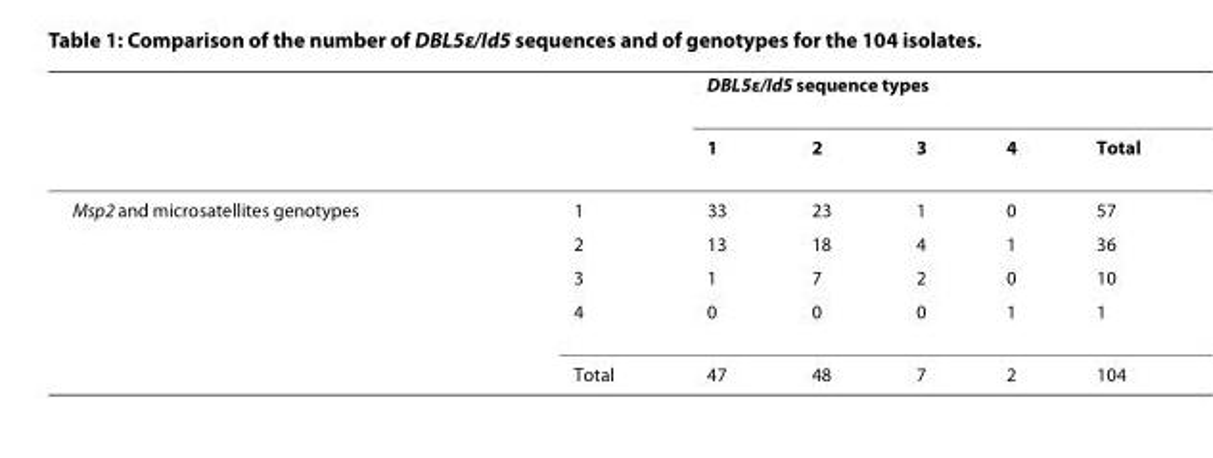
<table><thead><tr><td rowspan="2"></td><td rowspan="2"></td><td colspan="5">DBL5ε/Id5 sequence types</td></tr><tr><td>1</td><td>2</td><td>3</td><td>4</td><td>Total</td></tr></thead><tbody><tr><td rowspan="5">Msp2 and microsatellites genotypes</td><td>1</td><td>33</td><td>23</td><td>1</td><td>0</td><td>57</td></tr><tr><td>2</td><td>13</td><td>18</td><td>4</td><td>1</td><td>36</td></tr><tr><td>3</td><td>1</td><td>7</td><td>2</td><td>0</td><td>10</td></tr><tr><td>4</td><td>0</td><td>0</td><td>0</td><td>1</td><td>1</td></tr><tr><td>Total</td><td>47</td><td>48</td><td>7</td><td>2</td><td>104</td></tr></tbody></table>